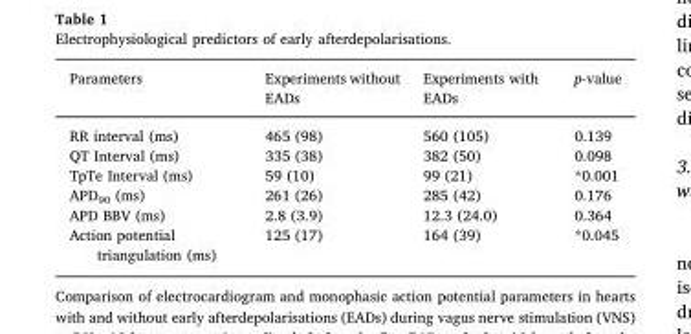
<table><thead><tr><td>Parameters</td><td>Experiments without EADs</td><td>Experiments with EADs</td><td>p-value</td></tr></thead><tbody><tr><td>RR interval (ms)</td><td>465 (98)</td><td>560 (105)</td><td>0.139</td></tr><tr><td>QT Interval (ms)</td><td>335 (38)</td><td>382 (50)</td><td>0.098</td></tr><tr><td>TpTe Interval (ms)</td><td>59 (10)</td><td>99 (21)</td><td>*0.001</td></tr><tr><td>APD<sub>90</sub> (ms)</td><td>261 (26)</td><td>285 (42)</td><td>0.176</td></tr><tr><td>APD BBV (ms)</td><td>2.8 (3.9)</td><td>12.3 (24.0)</td><td>0.364</td></tr><tr><td>Action potential triangulation (ms)</td><td>125 (17)</td><td>164 (39)</td><td>*0.045</td></tr></tbody></table>